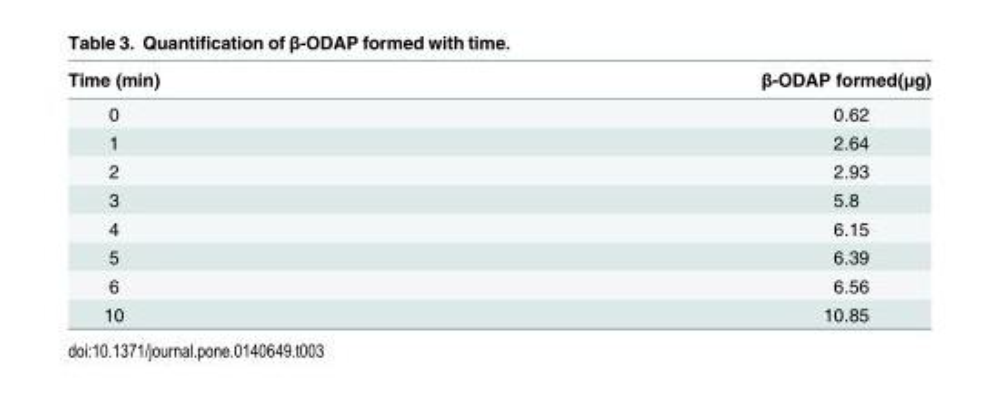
<table><thead><tr><td>Time (min)</td><td>β-ODAP formed(μg)</td></tr></thead><tbody><tr><td>0</td><td>0.62</td></tr><tr><td>1</td><td>2.64</td></tr><tr><td>2</td><td>2.93</td></tr><tr><td>3</td><td>5.8</td></tr><tr><td>4</td><td>6.15</td></tr><tr><td>5</td><td>6.39</td></tr><tr><td>6</td><td>6.56</td></tr><tr><td>10</td><td>10.85</td></tr></tbody></table>